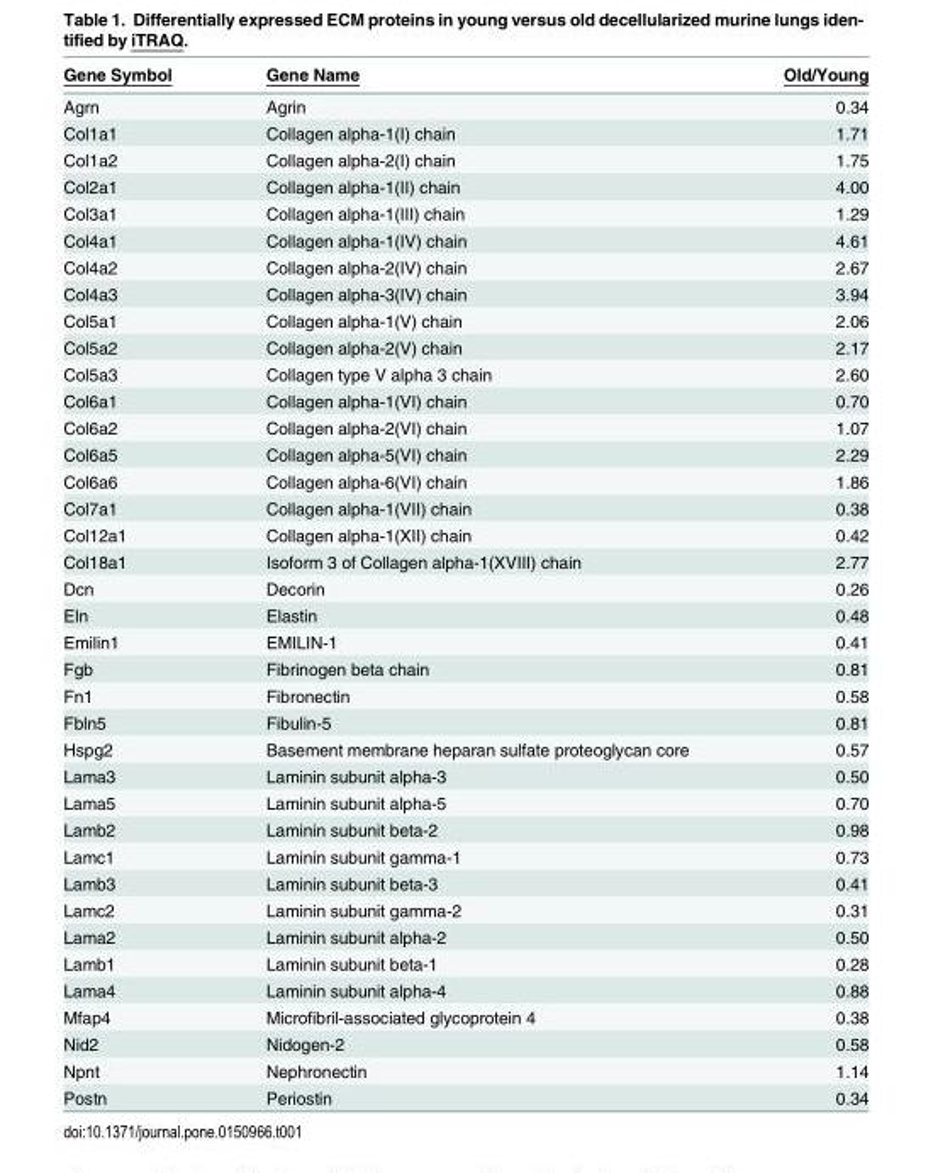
<table><thead><tr><td>Gene Symbol</td><td>Gene Name</td><td>Old/Young</td></tr></thead><tbody><tr><td>Agrn</td><td>Agrin</td><td>0.34</td></tr><tr><td>Col1a1</td><td>Collagen alpha-1(I) chain</td><td>1.71</td></tr><tr><td>Col1a2</td><td>Collagen alpha-2(I) chain</td><td>1.75</td></tr><tr><td>Col2a1</td><td>Collagen alpha-1(II) chain</td><td>4.00</td></tr><tr><td>Col3a1</td><td>Collagen alpha-1(III) chain</td><td>1.29</td></tr><tr><td>Col4a1</td><td>Collagen alpha-1(IV) chain</td><td>4.61</td></tr><tr><td>Col4a2</td><td>Collagen alpha-2(IV) chain</td><td>2.67</td></tr><tr><td>Col4a3</td><td>Collagen alpha-3(IV) chain</td><td>3.94</td></tr><tr><td>Col5a1</td><td>Collagen alpha-1(V) chain</td><td>2.06</td></tr><tr><td>Col5a2</td><td>Collagen alpha-2(V) chain</td><td>2.17</td></tr><tr><td>Col5a3</td><td>Collagen type V alpha 3 chain</td><td>2.60</td></tr><tr><td>Col6a1</td><td>Collagen alpha-1(VI) chain</td><td>0.70</td></tr><tr><td>Col6a2</td><td>Collagen alpha-2(VI) chain</td><td>1.07</td></tr><tr><td>Col6a5</td><td>Collagen alpha-5(VI) chain</td><td>2.29</td></tr><tr><td>Col6a6</td><td>Collagen alpha-6(VI) chain</td><td>1.86</td></tr><tr><td>Col7a1</td><td>Collagen alpha-1(VII) chain</td><td>0.38</td></tr><tr><td>Col12a1</td><td>Collagen alpha-1(XII) chain</td><td>0.42</td></tr><tr><td>Col18a1</td><td>Isoform 3 of Collagen alpha-1(XVIII) chain</td><td>2.77</td></tr><tr><td>Dcn</td><td>Decorin</td><td>0.26</td></tr><tr><td>Eln</td><td>Elastin</td><td>0.48</td></tr><tr><td>Emilin1</td><td>EMILIN-1</td><td>0.41</td></tr><tr><td>Fgb</td><td>Fibrinogen beta chain</td><td>0.81</td></tr><tr><td>Fn1</td><td>Fibronectin</td><td>0.58</td></tr><tr><td>Fbln5</td><td>Fibulin-5</td><td>0.81</td></tr><tr><td>Hspg2</td><td>Basement membrane heparan sulfate proteoglycan core</td><td>0.57</td></tr><tr><td>Lama3</td><td>Laminin subunit alpha-3</td><td>0.50</td></tr><tr><td>Lama5</td><td>Laminin subunit alpha-5</td><td>0.70</td></tr><tr><td>Lamb2</td><td>Laminin subunit beta-2</td><td>0.98</td></tr><tr><td>Lamc1</td><td>Laminin subunit gamma-1</td><td>0.73</td></tr><tr><td>Lamb3</td><td>Laminin subunit beta-3</td><td>0.41</td></tr><tr><td>Lamc2</td><td>Laminin subunit gamma-2</td><td>0.31</td></tr><tr><td>Lama2</td><td>Laminin subunit alpha-2</td><td>0.50</td></tr><tr><td>Lamb1</td><td>Laminin subunit beta-1</td><td>0.28</td></tr><tr><td>Lama4</td><td>Laminin subunit alpha-4</td><td>0.88</td></tr><tr><td>Mfap4</td><td>Microfibril-associated glycoprotein 4</td><td>0.38</td></tr><tr><td>Nid2</td><td>Nidogen-2</td><td>0.58</td></tr><tr><td>Npnt</td><td>Nephronectin</td><td>1.14</td></tr><tr><td>Postn</td><td>Periostin</td><td>0.34</td></tr></tbody></table>